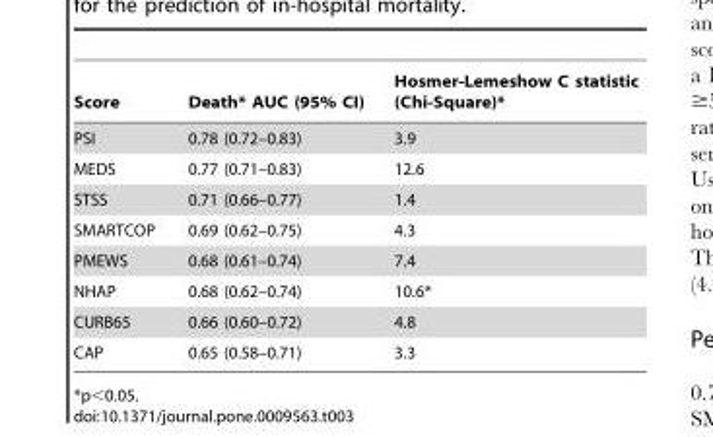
<table><thead><tr><td>Score</td><td>Death* AUC (95% CI)</td><td>Hosmer-Lemeshow C statistic (Chi-Square)*</td></tr></thead><tbody><tr><td>PSI</td><td>0.78 (0.72–0.83)</td><td>3.9</td></tr><tr><td>MEDS</td><td>0.77 (0.71–0.83)</td><td>12.6</td></tr><tr><td>STSS</td><td>0.71 (0.66–0.77)</td><td>1.4</td></tr><tr><td>SMARTCOP</td><td>0.69 (0.62–0.75)</td><td>4.3</td></tr><tr><td>PMEWS</td><td>0.68 (0.61–0.74)</td><td>7.4</td></tr><tr><td>NHAP</td><td>0.68 (0.62–0.74)</td><td>10.6*</td></tr><tr><td>CURB65</td><td>0.66 (0.60–0.72)</td><td>4.8</td></tr><tr><td>CAP</td><td>0.65 (0.58–0.71)</td><td>3.3</td></tr></tbody></table>